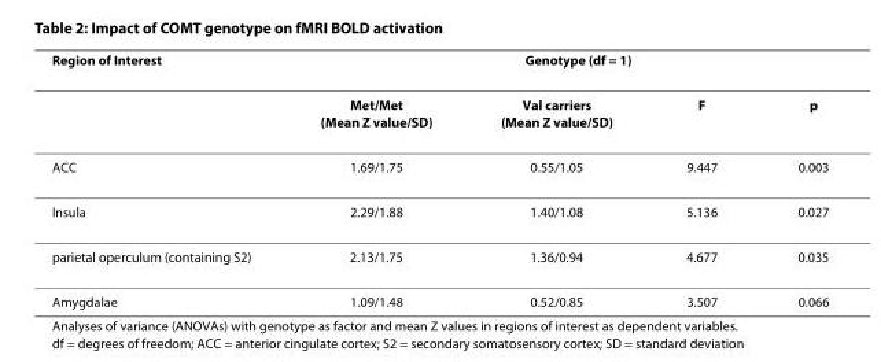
<table><thead><tr><td rowspan="2">Region of Interest</td><td colspan="4">Genotype (df = 1)</td></tr><tr><td>Met/Met (Mean Z value/SD)</td><td>Val carriers (Mean Z value/SD)</td><td>F</td><td>p</td></tr></thead><tbody><tr><td>ACC</td><td>1.69/1.75</td><td>0.55/1.05</td><td>9.447</td><td>0.003</td></tr><tr><td>Insula</td><td>2.29/1.88</td><td>1.40/1.08</td><td>5.136</td><td>0.027</td></tr><tr><td>parietal operculum (containing S2)</td><td>2.13/1.75</td><td>1.36/0.94</td><td>4.677</td><td>0.035</td></tr><tr><td>Amygdalae</td><td>1.09/1.48</td><td>0.52/0.85</td><td>3.507</td><td>0.066</td></tr></tbody></table>